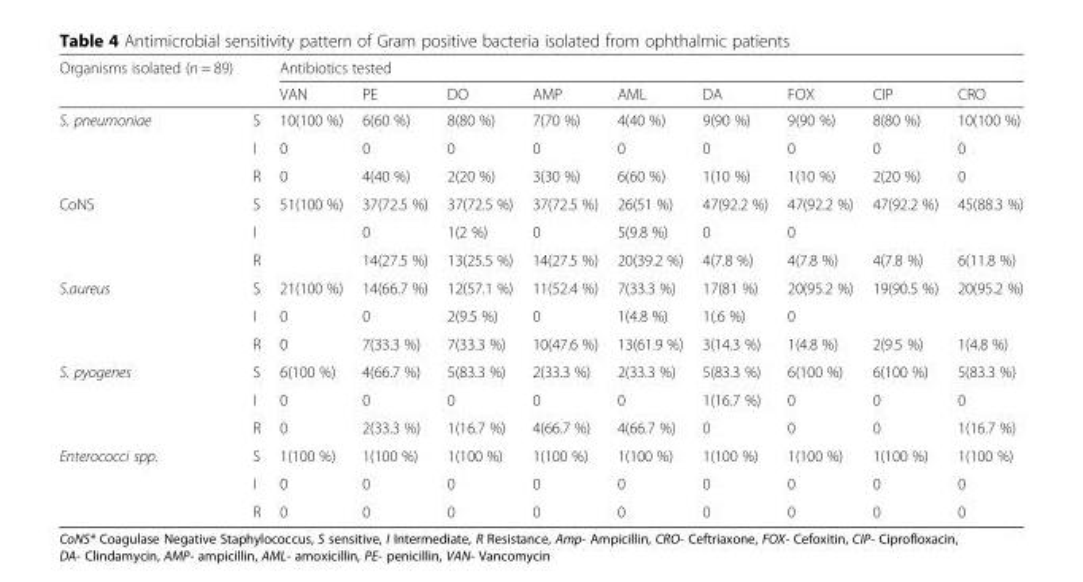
<table><thead><tr><td rowspan="2">Organisms isolated (n = 89)</td><td rowspan="2"></td><td colspan="9">Antibiotics tested</td></tr><tr><td>VAN</td><td>PE</td><td>DO</td><td>AMP</td><td>AML</td><td>DA</td><td>FOX</td><td>CIP</td><td>CRO</td></tr></thead><tbody><tr><td rowspan="3">S. pneumoniae</td><td>S</td><td>10(100 %)</td><td>6(60 %)</td><td>8(80 %)</td><td>7(70 %)</td><td>4(40 %)</td><td>9(90 %)</td><td>9(90 %)</td><td>8(80 %)</td><td>10(100 %)</td></tr><tr><td>I</td><td>0</td><td>0</td><td>0</td><td>0</td><td>0</td><td>0</td><td>0</td><td>0</td><td>0</td></tr><tr><td>R</td><td>0</td><td>4(40 %)</td><td>2(20 %)</td><td>3(30 %)</td><td>6(60 %)</td><td>1(10 %)</td><td>1(10 %)</td><td>2(20 %)</td><td>0</td></tr><tr><td rowspan="3">CoNS</td><td>S</td><td>51(100 %)</td><td>37(72.5 %)</td><td>37(72.5 %)</td><td>37(72.5 %)</td><td>26(51 %)</td><td>47(92.2 %)</td><td>47(92.2 %)</td><td>47(92.2 %)</td><td>45(88.3 %)</td></tr><tr><td>I</td><td></td><td>0</td><td>1(2 %)</td><td>0</td><td>5(9.8 %)</td><td>0</td><td>0</td><td></td><td></td></tr><tr><td>R</td><td></td><td>14(27.5 %)</td><td>13(25.5 %)</td><td>14(27.5 %)</td><td>20(39.2 %)</td><td>4(7.8 %)</td><td>4(7.8 %)</td><td>4(7.8 %)</td><td>6(11.8 %)</td></tr><tr><td rowspan="3">S.aureus</td><td>S</td><td>21(100 %)</td><td>14(66.7 %)</td><td>12(57.1 %)</td><td>11(52.4 %)</td><td>7(33.3 %)</td><td>17(81 %)</td><td>20(95.2 %)</td><td>19(90.5 %)</td><td>20(95.2 %)</td></tr><tr><td>I</td><td>0</td><td>0</td><td>2(9.5 %)</td><td>0</td><td>1(4.8 %)</td><td>1(.6 %)</td><td>0</td><td></td><td></td></tr><tr><td>R</td><td>0</td><td>7(33.3 %)</td><td>7(33.3 %)</td><td>10(47.6 %)</td><td>13(61.9 %)</td><td>3(14.3 %)</td><td>1(4.8 %)</td><td>2(9.5 %)</td><td>1(4.8 %)</td></tr><tr><td rowspan="3">S. pyogenes</td><td>S</td><td>6(100 %)</td><td>4(66.7 %)</td><td>5(83.3 %)</td><td>2(33.3 %)</td><td>2(33.3 %)</td><td>5(83.3 %)</td><td>6(100 %)</td><td>6(100 %)</td><td>5(83.3 %)</td></tr><tr><td>I</td><td>0</td><td>0</td><td>0</td><td>0</td><td>0</td><td>1(16.7 %)</td><td>0</td><td>0</td><td>0</td></tr><tr><td>R</td><td>0</td><td>2(33.3 %)</td><td>1(16.7 %)</td><td>4(66.7 %)</td><td>4(66.7 %)</td><td>0</td><td>0</td><td>0</td><td>1(16.7 %)</td></tr><tr><td rowspan="3">Enterococci spp.</td><td>S</td><td>1(100 %)</td><td>1(100 %)</td><td>1(100 %)</td><td>1(100 %)</td><td>1(100 %)</td><td>1(100 %)</td><td>1(100 %)</td><td>1(100 %)</td><td>1(100 %)</td></tr><tr><td>I</td><td>0</td><td>0</td><td>0</td><td>0</td><td>0</td><td>0</td><td>0</td><td>0</td><td>0</td></tr><tr><td>R</td><td>0</td><td>0</td><td>0</td><td>0</td><td>0</td><td>0</td><td>0</td><td>0</td><td>0</td></tr></tbody></table>